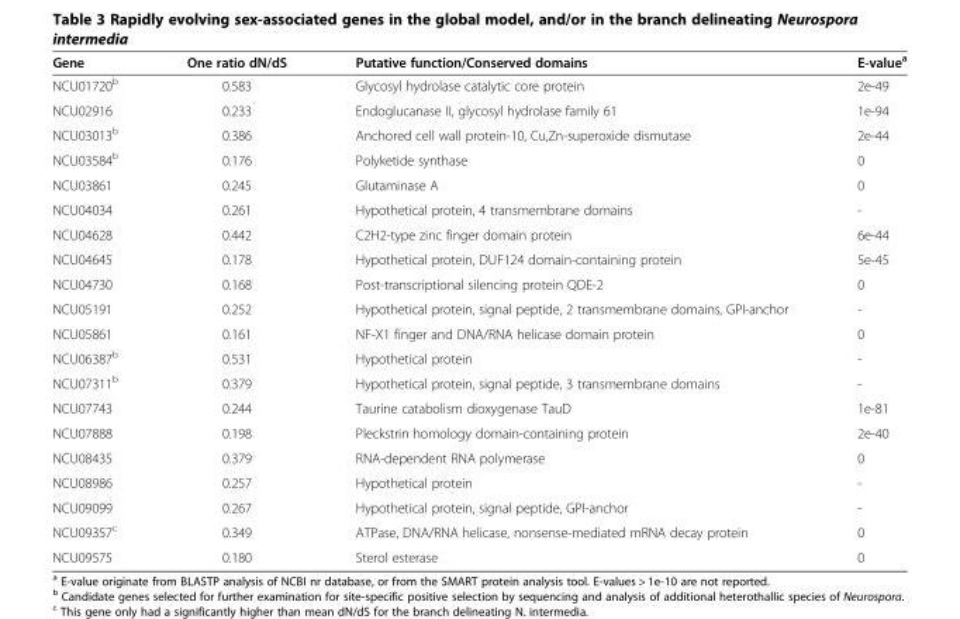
<table><thead><tr><td>Gene</td><td>One ratio dN/dS</td><td>Putative function/Conserved domains</td><td>E-value<sup>a</sup></td></tr></thead><tbody><tr><td>NCU01720<sup>b</sup></td><td>0.583</td><td>Glycosyl hydrolase catalytic core protein</td><td>2e-49</td></tr><tr><td>NCU02916</td><td>0.233</td><td>Endoglucanase II, glycosyl hydrolase family 61</td><td>1e-94</td></tr><tr><td>NCU03013<sup>b</sup></td><td>0.386</td><td>Anchored cell wall protein-10, Cu,Zn-superoxide dismutase</td><td>2e-44</td></tr><tr><td>NCU03584<sup>b</sup></td><td>0.176</td><td>Polyketide synthase</td><td>0</td></tr><tr><td>NCU03861</td><td>0.245</td><td>Glutaminase A</td><td>0</td></tr><tr><td>NCU04034</td><td>0.261</td><td>Hypothetical protein, 4 transmembrane domains</td><td>-</td></tr><tr><td>NCU04628</td><td>0.442</td><td>C2H2-type zinc finger domain protein</td><td>6e-44</td></tr><tr><td>NCU04645</td><td>0.178</td><td>Hypothetical protein, DUF124 domain-containing protein</td><td>5e-45</td></tr><tr><td>NCU04730</td><td>0.168</td><td>Post-transcriptional silencing protein QDE-2</td><td>0</td></tr><tr><td>NCU05191</td><td>0.252</td><td>Hypothetical protein, signal peptide, 2 transmembrane domains, GPI-anchor</td><td>-</td></tr><tr><td>NCU05861</td><td>0.161</td><td>NF-X1 finger and DNA/RNA helicase domain protein</td><td>0</td></tr><tr><td>NCU06387<sup>b</sup></td><td>0.531</td><td>Hypothetical protein</td><td>-</td></tr><tr><td>NCU07311<sup>b</sup></td><td>0.379</td><td>Hypothetical protein, signal peptide, 3 transmembrane domains</td><td>-</td></tr><tr><td>NCU07743</td><td>0.244</td><td>Taurine catabolism dioxygenase TauD</td><td>1e-81</td></tr><tr><td>NCU07888</td><td>0.198</td><td>Pleckstrin homology domain-containing protein</td><td>2e-40</td></tr><tr><td>NCU08435</td><td>0.379</td><td>RNA-dependent RNA polymerase</td><td>0</td></tr><tr><td>NCU08986</td><td>0.257</td><td>Hypothetical protein</td><td>-</td></tr><tr><td>NCU09099</td><td>0.267</td><td>Hypothetical protein, signal peptide, GPI-anchor</td><td>-</td></tr><tr><td>NCU09357<sup>c</sup></td><td>0.349</td><td>ATPase, DNA/RNA helicase, nonsense-mediated mRNA decay protein</td><td>0</td></tr><tr><td>NCU09575</td><td>0.180</td><td>Sterol esterase</td><td>0</td></tr></tbody></table>